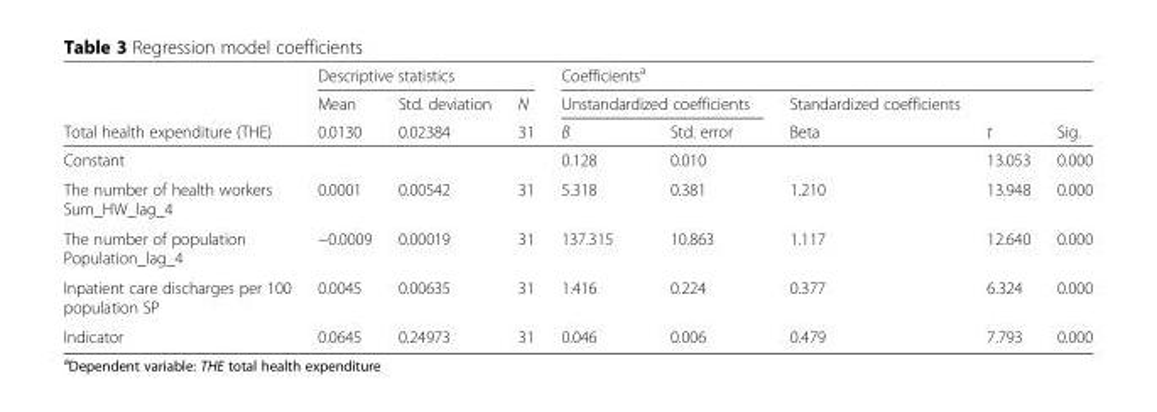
<table><thead><tr><td rowspan="3">Total health expenditure (THE)</td><td colspan="3">Descriptive statistics</td><td colspan="5">Coefficients<sup>a</sup></td></tr><tr><td rowspan="2">Mean 0.0130</td><td rowspan="2">Std. deviation 0.02384</td><td rowspan="2">N 31</td><td colspan="2">Unstandardized coefficients</td><td rowspan="2">Standardized coefficients Beta</td><td rowspan="2">t</td><td rowspan="2">Sig.</td></tr><tr><td>B</td><td>Std. error</td></tr></thead><tbody><tr><td>Constant</td><td></td><td></td><td></td><td>0.128</td><td>0.010</td><td></td><td>13.053</td><td>0.000</td></tr><tr><td>The number of health workers Sum_HW_lag_4</td><td>0.0001</td><td>0.00542</td><td>31</td><td>5.318</td><td>0.381</td><td>1.210</td><td>13.948</td><td>0.000</td></tr><tr><td>The number of population Population_lag_4</td><td>−0.0009</td><td>0.00019</td><td>31</td><td>137.315</td><td>10.863</td><td>1.117</td><td>12.640</td><td>0.000</td></tr><tr><td>Inpatient care discharges per 100 population SP</td><td>0.0045</td><td>0.00635</td><td>31</td><td>1.416</td><td>0.224</td><td>0.377</td><td>6.324</td><td>0.000</td></tr><tr><td>Indicator</td><td>0.0645</td><td>0.24973</td><td>31</td><td>0.046</td><td>0.006</td><td>0.479</td><td>7.793</td><td>0.000</td></tr></tbody></table>